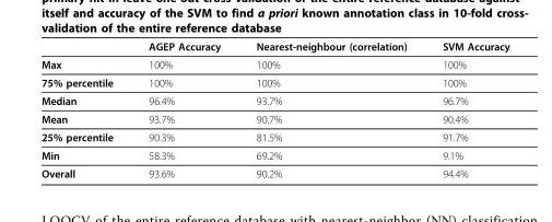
<table><thead><tr><td></td><td>AGEP Accuracy</td><td>Nearest-neighbour (correlation)</td><td>SVM Accuracy</td></tr></thead><tbody><tr><td>Max</td><td>100%</td><td>100%</td><td>100%</td></tr><tr><td>75% percentile</td><td>100%</td><td>100%</td><td>100%</td></tr><tr><td>Median</td><td>96.4%</td><td>93.7%</td><td>96.7%</td></tr><tr><td>Mean</td><td>93.7%</td><td>90.7%</td><td>90.4%</td></tr><tr><td>25% percentile</td><td>90.3%</td><td>81.5%</td><td>91.7%</td></tr><tr><td>Min</td><td>58.3%</td><td>69.2%</td><td>9.1%</td></tr><tr><td>Overall</td><td>93.6%</td><td>90.2%</td><td>94.4%</td></tr></tbody></table>